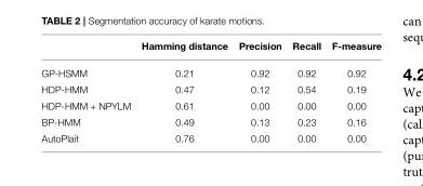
<table><thead><tr><td></td><td>Hamming distance</td><td>Precision</td><td>Recall</td><td>F-measure</td></tr></thead><tbody><tr><td>GP-HSMM</td><td>0.21</td><td>0.92</td><td>0.92</td><td>0.92</td></tr><tr><td>HDP-HMM</td><td>0.47</td><td>0.12</td><td>0.54</td><td>0.19</td></tr><tr><td>HDP-HMM + NPYLM</td><td>0.61</td><td>0.00</td><td>0.00</td><td>0.00</td></tr><tr><td>BP-HMM</td><td>0.49</td><td>0.13</td><td>0.23</td><td>0.16</td></tr><tr><td>AutoPlait</td><td>0.76</td><td>0.00</td><td>0.00</td><td>0.00</td></tr></tbody></table>